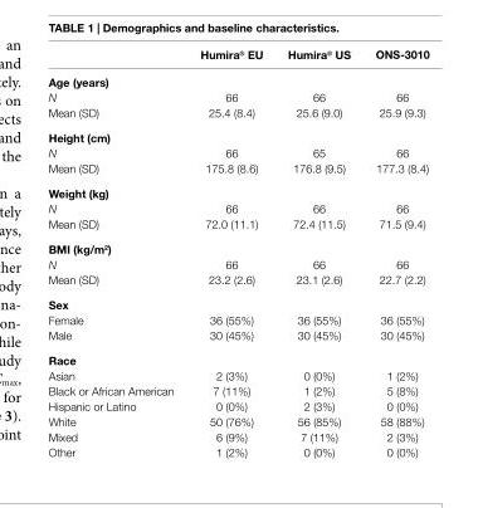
<table><thead><tr><td></td><td>humira<sup>®</sup> eU</td><td>humira<sup>®</sup> Us</td><td>Ons-3010</td></tr></thead><tbody><tr><td colspan="4">age (years)</td></tr><tr><td>N</td><td>66</td><td>66</td><td>66</td></tr><tr><td>Mean (SD)</td><td>25.4 (8.4)</td><td>25.6 (9.0)</td><td>25.9 (9.3)</td></tr><tr><td colspan="4">height (cm)</td></tr><tr><td>N</td><td>66</td><td>65</td><td>66</td></tr><tr><td>Mean (SD)</td><td>175.8 (8.6)</td><td>176.8 (9.5)</td><td>177.3 (8.4)</td></tr><tr><td colspan="4">Weight (kg)</td></tr><tr><td>N</td><td>66</td><td>66</td><td>66</td></tr><tr><td>Mean (SD)</td><td>72.0 (11.1)</td><td>72.4 (11.5)</td><td>71.5 (9.4)</td></tr><tr><td colspan="4">BMi (kg/m<sup>2</sup>)</td></tr><tr><td>N</td><td>66</td><td>66</td><td>66</td></tr><tr><td>Mean (SD)</td><td>23.2 (2.6)</td><td>23.1 (2.6)</td><td>22.7 (2.2)</td></tr><tr><td colspan="4">sex</td></tr><tr><td>Female</td><td>36 (55%)</td><td>36 (55%)</td><td>36 (55%)</td></tr><tr><td>Male</td><td>30 (45%)</td><td>30 (45%)</td><td>30 (45%)</td></tr><tr><td colspan="4">race</td></tr><tr><td>Asian</td><td>2 (3%)</td><td>0 (0%)</td><td>1 (2%)</td></tr><tr><td>Black or African American</td><td>7 (11%)</td><td>1 (2%)</td><td>5 (8%)</td></tr><tr><td>Hispanic or Latino</td><td>0 (0%)</td><td>2 (3%)</td><td>0 (0%)</td></tr><tr><td>White</td><td>50 (76%)</td><td>56 (85%)</td><td>58 (88%)</td></tr><tr><td>Mixed</td><td>6 (9%)</td><td>7 (11%)</td><td>2 (3%)</td></tr><tr><td>Other</td><td>1 (2%)</td><td>0 (0%)</td><td>0 (0%)</td></tr></tbody></table>